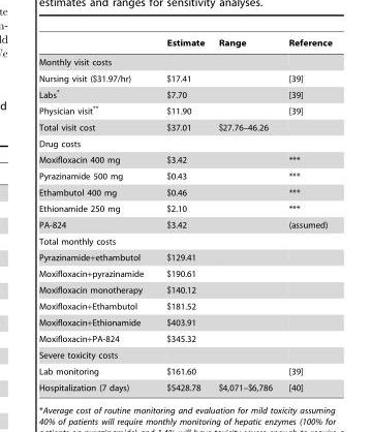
<table><thead><tr><td></td><td>Estimate</td><td>Range</td><td>Reference</td></tr></thead><tbody><tr><td colspan="4">Monthly visit costs</td></tr><tr><td>Nursing visit ($31.97/hr)</td><td>$17.41</td><td></td><td>[39]</td></tr><tr><td>Labs*</td><td>$7.70</td><td></td><td>[39]</td></tr><tr><td>Physician visit**</td><td>$11.90</td><td></td><td>[39]</td></tr><tr><td>Total visit cost</td><td>$37.01</td><td>$27.76–46.26</td><td></td></tr><tr><td colspan="4">Drug costs</td></tr><tr><td>Moxifloxacin 400 mg</td><td>$3.42</td><td></td><td>***</td></tr><tr><td>Pyrazinamide 500 mg</td><td>$0.43</td><td></td><td>***</td></tr><tr><td>Ethambutol 400 mg</td><td>$0.46</td><td></td><td>***</td></tr><tr><td>Ethionamide 250 mg</td><td>$2.10</td><td></td><td>***</td></tr><tr><td>PA-824</td><td>$3.42</td><td></td><td>(assumed)</td></tr><tr><td colspan="4">Total monthly costs</td></tr><tr><td>Pyrazinamide+ethambutol</td><td>$129.41</td><td></td><td></td></tr><tr><td>Moxifloxacin+pyrazinamide</td><td>$190.61</td><td></td><td></td></tr><tr><td>Moxifloxacin monotherapy</td><td>$140.12</td><td></td><td></td></tr><tr><td>Moxifloxacin+Ethambutol</td><td>$181.52</td><td></td><td></td></tr><tr><td>Moxifloxacin+Ethionamide</td><td>$403.91</td><td></td><td></td></tr><tr><td>Moxifloxacin+PA-824</td><td>$345.32</td><td></td><td></td></tr><tr><td colspan="4">Severe toxicity costs</td></tr><tr><td>Lab monitoring</td><td>$161.60</td><td></td><td>[39]</td></tr><tr><td>Hospitalization (7 days)</td><td>$5428.78</td><td>$4,071–$6,786</td><td>[40]</td></tr></tbody></table>